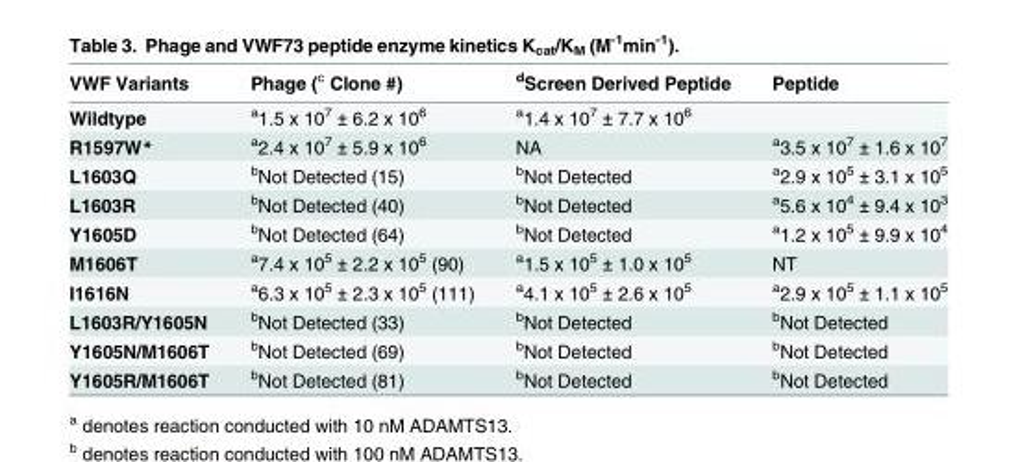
<table><thead><tr><td>VWF Variants</td><td>Phage (<sup>c</sup> Clone #)</td><td><sup>d</sup>Screen Derived Peptide</td><td>Peptide</td></tr></thead><tbody><tr><td>Wildtype</td><td><sup>a</sup>1.5 x 10<sup>7</sup> ± 6.2 x 10<sup>6</sup></td><td><sup>a</sup>1.4 x 10<sup>7</sup> ± 7.7 x 10<sup>6</sup></td><td></td></tr><tr><td>R1597W*</td><td><sup>a</sup>2.4 x 10<sup>7</sup> ± 5.9 x 10<sup>6</sup></td><td>NA</td><td><sup>a</sup>3.5 x 10<sup>7</sup> ± 1.6 x 10<sup>7</sup></td></tr><tr><td>L1603Q</td><td><sup>b</sup>Not Detected (15)</td><td><sup>b</sup>Not Detected</td><td><sup>a</sup>2.9 x 10<sup>5</sup> ± 3.1 x 10<sup>5</sup></td></tr><tr><td>L1603R</td><td><sup>b</sup>Not Detected (40)</td><td><sup>b</sup>Not Detected</td><td><sup>a</sup>5.6 x 10<sup>4</sup> ± 9.4 x 10<sup>3</sup></td></tr><tr><td>Y1605D</td><td><sup>b</sup>Not Detected (64)</td><td><sup>b</sup>Not Detected</td><td><sup>a</sup>1.2 x 10<sup>5</sup> ± 9.9 x 10<sup>4</sup></td></tr><tr><td>M1606T</td><td><sup>a</sup>7.4 x 10<sup>5</sup> ± 2.2 x 10<sup>5</sup> (90)</td><td><sup>a</sup>1.5 x 10<sup>5</sup> ± 1.0 x 10<sup>5</sup></td><td>NT</td></tr><tr><td>I1616N</td><td><sup>a</sup>6.3 x 10<sup>5</sup> ± 2.3 x 10<sup>5</sup> (111)</td><td><sup>a</sup>4.1 x 10<sup>5</sup> ± 2.6 x 10<sup>5</sup></td><td><sup>a</sup>2.9 x 10<sup>5</sup> ± 1.1 x 10<sup>5</sup></td></tr><tr><td>L1603R/Y1605N</td><td><sup>b</sup>Not Detected (33)</td><td><sup>b</sup>Not Detected</td><td><sup>b</sup>Not Detected</td></tr><tr><td>Y1605N/M1606T</td><td><sup>b</sup>Not Detected (69)</td><td><sup>b</sup>Not Detected</td><td><sup>b</sup>Not Detected</td></tr><tr><td>Y1605R/M1606T</td><td><sup>b</sup>Not Detected (81)</td><td><sup>b</sup>Not Detected</td><td><sup>b</sup>Not Detected</td></tr></tbody></table>